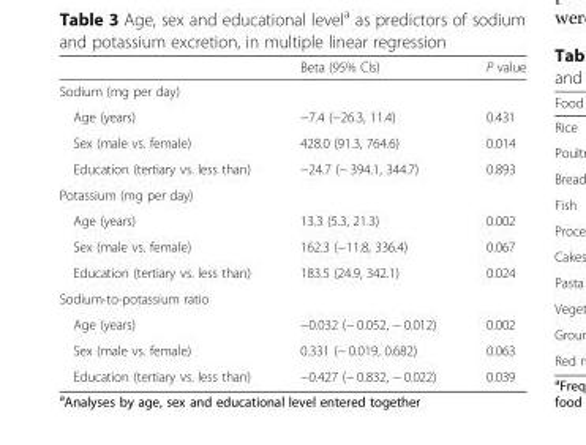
<table><thead><tr><td></td><td>Beta (95% CIs)</td><td>P value</td></tr></thead><tbody><tr><td colspan="3">Sodium (mg per day)</td></tr><tr><td>Age (years)</td><td>−7.4 (−26.3, 11.4)</td><td>0.431</td></tr><tr><td>Sex (male vs. female)</td><td>428.0 (91.3, 764.6)</td><td>0.014</td></tr><tr><td>Education (tertiary vs. less than)</td><td>−24.7 (− 394.1, 344.7)</td><td>0.893</td></tr><tr><td colspan="3">Potassium (mg per day)</td></tr><tr><td>Age (years)</td><td>13.3 (5.3, 21.3)</td><td>0.002</td></tr><tr><td>Sex (male vs. female)</td><td>162.3 (−11.8, 336.4)</td><td>0.067</td></tr><tr><td>Education (tertiary vs. less than)</td><td>183.5 (24.9, 342.1)</td><td>0.024</td></tr><tr><td colspan="3">Sodium-to-potassium ratio</td></tr><tr><td>Age (years)</td><td>−0.032 (− 0.052, − 0.012)</td><td>0.002</td></tr><tr><td>Sex (male vs. female)</td><td>0.331 (− 0.019, 0.682)</td><td>0.063</td></tr><tr><td>Education (tertiary vs. less than)</td><td>−0.427 (− 0.832, − 0.022)</td><td>0.039</td></tr></tbody></table>